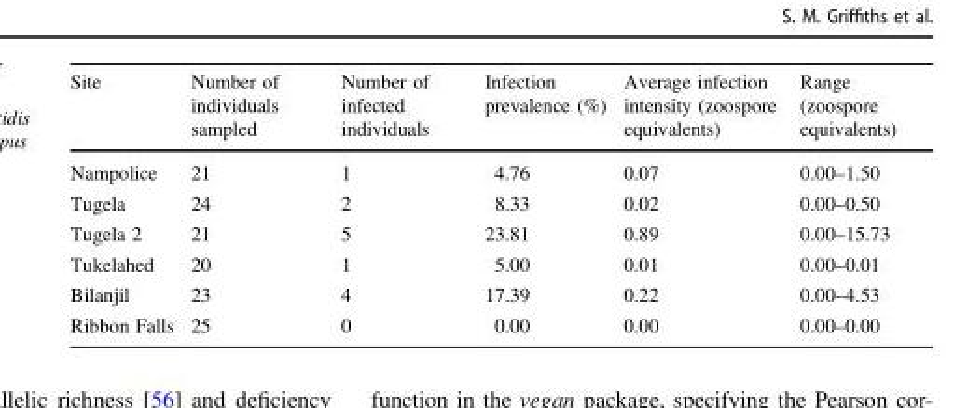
<table><thead><tr><td>Site</td><td>Number of individuals sampled</td><td>Number of infected individuals</td><td>Infection prevalence (%)</td><td>Average infection intensity (zoospore equivalents)</td><td>Range (zoospore equivalents)</td></tr></thead><tbody><tr><td>Nampolice</td><td>21</td><td>1</td><td>4.76</td><td>0.07</td><td>0.00–1.50</td></tr><tr><td>Tugela</td><td>24</td><td>2</td><td>8.33</td><td>0.02</td><td>0.00–0.50</td></tr><tr><td>Tugela 2</td><td>21</td><td>5</td><td>23.81</td><td>0.89</td><td>0.00–15.73</td></tr><tr><td>Tukelahed</td><td>20</td><td>1</td><td>5.00</td><td>0.01</td><td>0.00–0.01</td></tr><tr><td>Bilanjil</td><td>23</td><td>4</td><td>17.39</td><td>0.22</td><td>0.00–4.53</td></tr><tr><td>Ribbon Falls</td><td>25</td><td>0</td><td>0.00</td><td>0.00</td><td>0.00–0.00</td></tr></tbody></table>